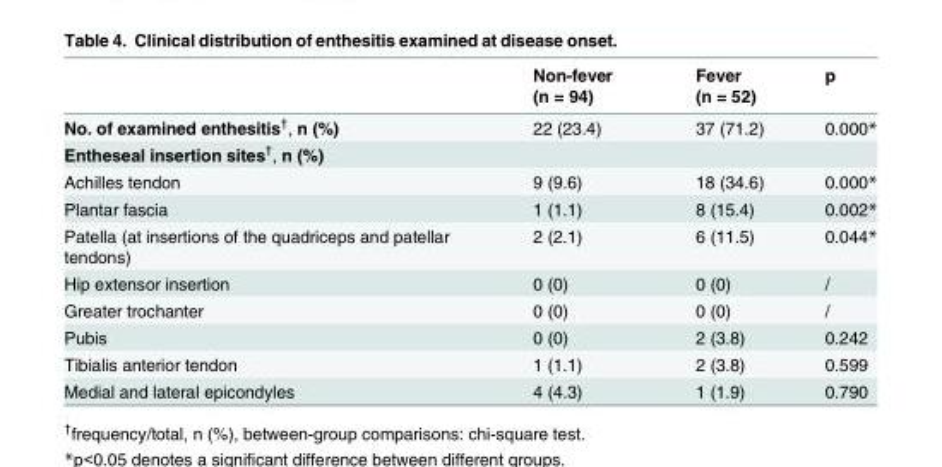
<table><thead><tr><td></td><td>Non-fever (n = 94)</td><td>Fever (n = 52)</td><td>p</td></tr></thead><tbody><tr><td>No. of examined enthesitis<sup>†</sup>, n (%)</td><td>22 (23.4)</td><td>37 (71.2)</td><td>0.000*</td></tr><tr><td colspan="4">Entheseal insertion sites<sup>†</sup>, n (%)</td></tr><tr><td>Achilles tendon</td><td>9 (9.6)</td><td>18 (34.6)</td><td>0.000*</td></tr><tr><td>Plantar fascia</td><td>1 (1.1)</td><td>8 (15.4)</td><td>0.002*</td></tr><tr><td>Patella (at insertions of the quadriceps and patellar tendons)</td><td>2 (2.1)</td><td>6 (11.5)</td><td>0.044*</td></tr><tr><td>Hip extensor insertion</td><td>0 (0)</td><td>0 (0)</td><td>/</td></tr><tr><td>Greater trochanter</td><td>0 (0)</td><td>0 (0)</td><td>/</td></tr><tr><td>Pubis</td><td>0 (0)</td><td>2 (3.8)</td><td>0.242</td></tr><tr><td>Tibialis anterior tendon</td><td>1 (1.1)</td><td>2 (3.8)</td><td>0.599</td></tr><tr><td>Medial and lateral epicondyles</td><td>4 (4.3)</td><td>1 (1.9)</td><td>0.790</td></tr></tbody></table>